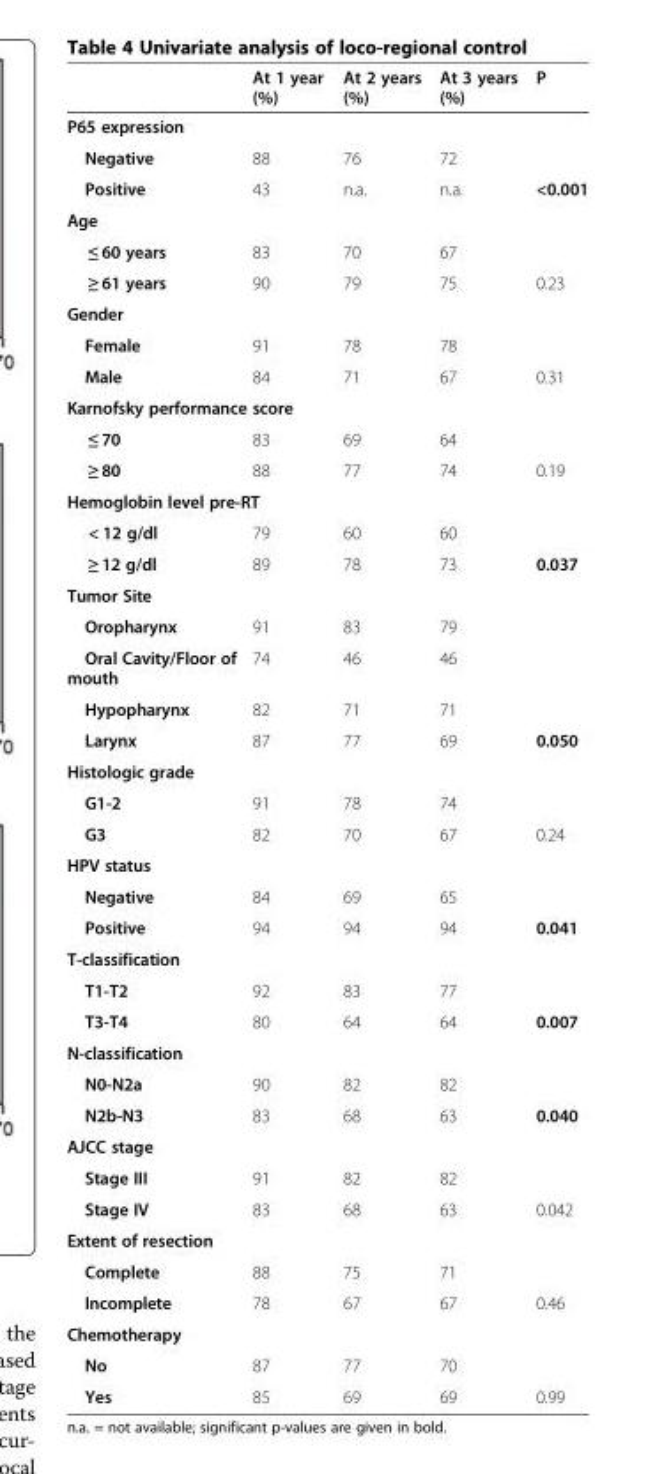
<table><thead><tr><td></td><td>At 1 year (%)</td><td>At 2 years (%)</td><td>At 3 years (%)</td><td>P</td></tr></thead><tbody><tr><td colspan="5">P65 expression</td></tr><tr><td>Negative</td><td>88</td><td>76</td><td>72</td><td></td></tr><tr><td>Positive</td><td>43</td><td>n.a.</td><td>n.a.</td><td>&lt;0.001</td></tr><tr><td colspan="5">Age</td></tr><tr><td>≤ 60 years</td><td>83</td><td>70</td><td>67</td><td></td></tr><tr><td>≥ 61 years</td><td>90</td><td>79</td><td>75</td><td>0.23</td></tr><tr><td colspan="5">Gender</td></tr><tr><td>Female</td><td>91</td><td>78</td><td>78</td><td></td></tr><tr><td>Male</td><td>84</td><td>71</td><td>67</td><td>0.31</td></tr><tr><td colspan="5">Karnofsky performance score</td></tr><tr><td>≤ 70</td><td>83</td><td>69</td><td>64</td><td></td></tr><tr><td>≥ 80</td><td>88</td><td>77</td><td>74</td><td>0.19</td></tr><tr><td colspan="5">Hemoglobin level pre-RT</td></tr><tr><td>&lt; 12 g/dl</td><td>79</td><td>60</td><td>60</td><td></td></tr><tr><td>≥ 12 g/dl</td><td>89</td><td>78</td><td>73</td><td>0.037</td></tr><tr><td colspan="5">Tumor Site</td></tr><tr><td>Oropharynx</td><td>91</td><td>83</td><td>79</td><td></td></tr><tr><td>Oral Cavity/Floor of mouth</td><td>74</td><td>46</td><td>46</td><td></td></tr><tr><td>Hypopharynx</td><td>82</td><td>71</td><td>71</td><td></td></tr><tr><td>Larynx</td><td>87</td><td>77</td><td>69</td><td>0.050</td></tr><tr><td colspan="5">Histologic grade</td></tr><tr><td>G1-2</td><td>91</td><td>78</td><td>74</td><td></td></tr><tr><td>G3</td><td>82</td><td>70</td><td>67</td><td>0.24</td></tr><tr><td colspan="5">HPV status</td></tr><tr><td>Negative</td><td>84</td><td>69</td><td>65</td><td></td></tr><tr><td>Positive</td><td>94</td><td>94</td><td>94</td><td>0.041</td></tr><tr><td colspan="5">T-classification</td></tr><tr><td>T1-T2</td><td>92</td><td>83</td><td>77</td><td></td></tr><tr><td>T3-T4</td><td>80</td><td>64</td><td>64</td><td>0.007</td></tr><tr><td colspan="5">N-classification</td></tr><tr><td>N0-N2a</td><td>90</td><td>82</td><td>82</td><td></td></tr><tr><td>N2b-N3</td><td>83</td><td>68</td><td>63</td><td>0.040</td></tr><tr><td colspan="5">AJCC stage</td></tr><tr><td>Stage III</td><td>91</td><td>82</td><td>82</td><td></td></tr><tr><td>Stage IV</td><td>83</td><td>68</td><td>63</td><td>0.042</td></tr><tr><td colspan="5">Extent of resection</td></tr><tr><td>Complete</td><td>88</td><td>75</td><td>71</td><td></td></tr><tr><td>Incomplete</td><td>78</td><td>67</td><td>67</td><td>0.46</td></tr><tr><td colspan="5">Chemotherapy</td></tr><tr><td>No</td><td>87</td><td>77</td><td>70</td><td></td></tr><tr><td>Yes</td><td>85</td><td>69</td><td>69</td><td>0.99</td></tr></tbody></table>